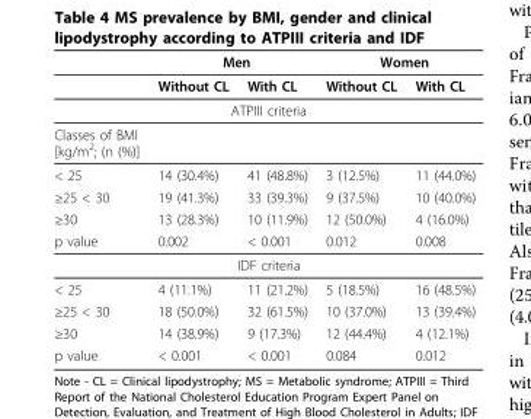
<table><thead><tr><td rowspan="2"></td><td colspan="2">Men</td><td colspan="2">Women</td></tr><tr><td>Without CL</td><td>With CL</td><td>Without CL</td><td>With CL</td></tr></thead><tbody><tr><td colspan="5">ATPIII criteria</td></tr><tr><td colspan="5">Classes of BMI [kg/m<sup>2</sup>; (n (%)]</td></tr><tr><td>&lt; 25</td><td>14 (30.4%)</td><td>41 (48.8%)</td><td>3 (12.5%)</td><td>11 (44.0%)</td></tr><tr><td>≥25 &lt; 30</td><td>19 (41.3%)</td><td>33 (39.3%)</td><td>9 (37.5%)</td><td>10 (40.0%)</td></tr><tr><td>≥30</td><td>13 (28.3%)</td><td>10 (11.9%)</td><td>12 (50.0%)</td><td>4 (16.0%)</td></tr><tr><td>p value</td><td>0.002</td><td>&lt; 0.001</td><td>0.012</td><td>0.008</td></tr><tr><td colspan="5">IDF criteria</td></tr><tr><td>&lt; 25</td><td>4 (11.1%)</td><td>11 (21.2%)</td><td>5 (18.5%)</td><td>16 (48.5%)</td></tr><tr><td>≥25 &lt; 30</td><td>18 (50.0%)</td><td>32 (61.5%)</td><td>10 (37.0%)</td><td>13 (39.4%)</td></tr><tr><td>≥30</td><td>14 (38.9%)</td><td>9 (17.3%)</td><td>12 (44.4%)</td><td>4 (12.1%)</td></tr><tr><td>p value</td><td>&lt; 0.001</td><td>&lt; 0.001</td><td>0.084</td><td>0.012</td></tr></tbody></table>